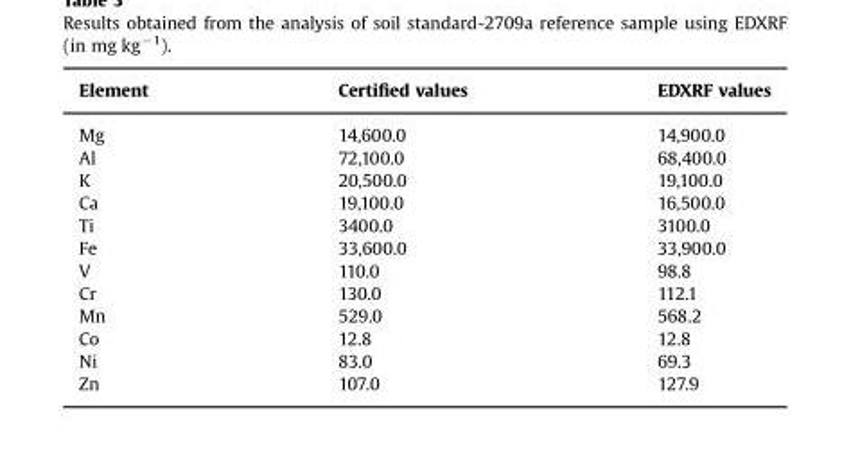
<table><thead><tr><td>Element</td><td>Certified values</td><td>EDXRF values</td></tr></thead><tbody><tr><td>Mg</td><td>14,600.0</td><td>14,900.0</td></tr><tr><td>Al</td><td>72,100.0</td><td>68,400.0</td></tr><tr><td>K</td><td>20,500.0</td><td>19,100.0</td></tr><tr><td>Ca</td><td>19,100.0</td><td>16,500.0</td></tr><tr><td>Ti</td><td>3400.0</td><td>3100.0</td></tr><tr><td>Fe</td><td>33,600.0</td><td>33,900.0</td></tr><tr><td>V</td><td>110.0</td><td>98.8</td></tr><tr><td>Cr</td><td>130.0</td><td>112.1</td></tr><tr><td>Mn</td><td>529.0</td><td>568.2</td></tr><tr><td>Co</td><td>12.8</td><td>12.8</td></tr><tr><td>Ni</td><td>83.0</td><td>69.3</td></tr><tr><td>Zn</td><td>107.0</td><td>127.9</td></tr></tbody></table>